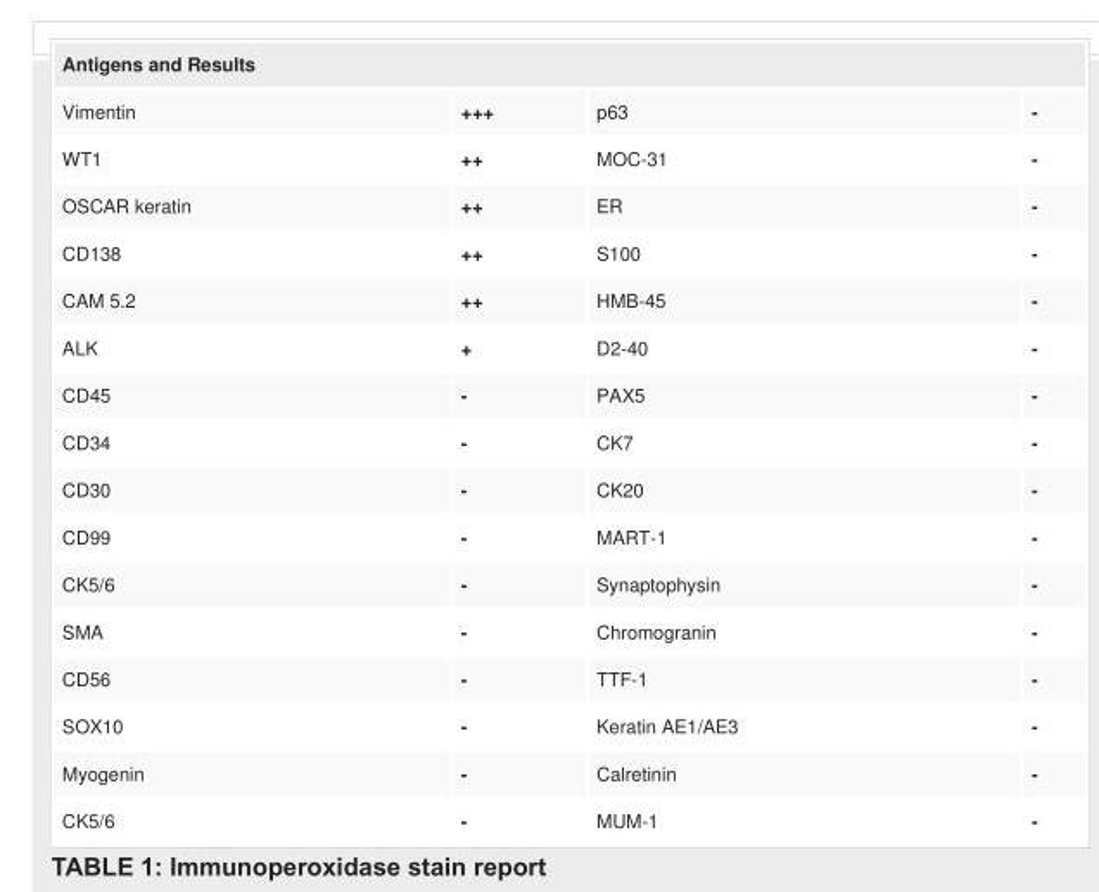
<table><tbody><tr><td colspan="4">Antigens and Results</td></tr><tr><td>Vimentin</td><td>+++</td><td>p63</td><td>-</td></tr><tr><td>WT1</td><td>++</td><td>MOC-31</td><td>-</td></tr><tr><td>OSCAR keratin</td><td>++</td><td>ER</td><td>-</td></tr><tr><td>CD138</td><td>++</td><td>S100</td><td>-</td></tr><tr><td>CAM 5.2</td><td>++</td><td>HMB-45</td><td>-</td></tr><tr><td>ALK</td><td>+</td><td>D2-40</td><td>-</td></tr><tr><td>CD45</td><td>-</td><td>PAX5</td><td>-</td></tr><tr><td>CD34</td><td>-</td><td>CK7</td><td>-</td></tr><tr><td>CD30</td><td>-</td><td>CK20</td><td>-</td></tr><tr><td>CD99</td><td>-</td><td>MART-1</td><td>-</td></tr><tr><td>CK5/6</td><td>-</td><td>Synaptophysin</td><td>-</td></tr><tr><td>SMA</td><td>-</td><td>Chromogranin</td><td>-</td></tr><tr><td>CD56</td><td>-</td><td>TTF-1</td><td>-</td></tr><tr><td>SOX10</td><td>-</td><td>Keratin AE1/AE3</td><td>-</td></tr><tr><td>Myogenin</td><td>-</td><td>Calretinin</td><td>-</td></tr><tr><td>CK5/6</td><td>-</td><td>MUM-1</td><td>-</td></tr></tbody></table>